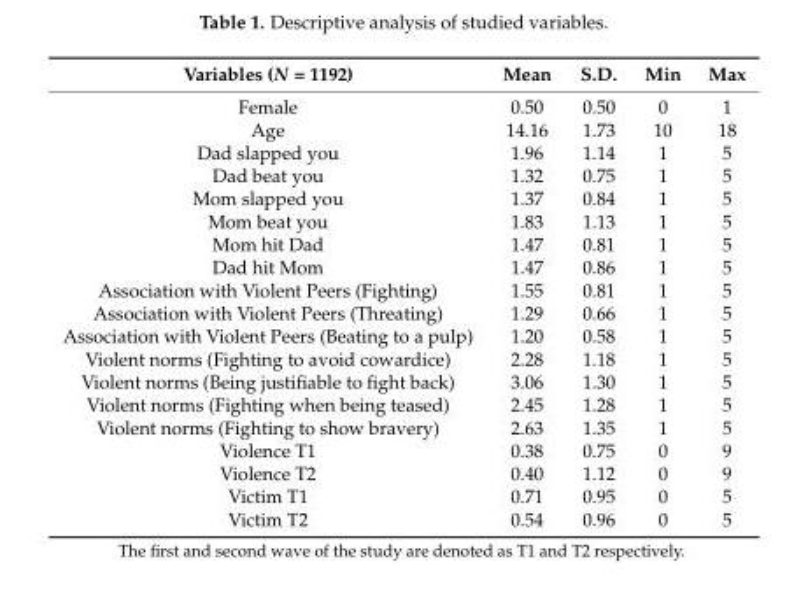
<table><thead><tr><td>Variables (N = 1192)</td><td>Mean</td><td>S.D.</td><td>Min</td><td>Max</td></tr></thead><tbody><tr><td>Female</td><td>0.50</td><td>0.50</td><td>0</td><td>1</td></tr><tr><td>Age</td><td>14.16</td><td>1.73</td><td>10</td><td>18</td></tr><tr><td>Dad slapped you</td><td>1.96</td><td>1.14</td><td>1</td><td>5</td></tr><tr><td>Dad beat you</td><td>1.32</td><td>0.75</td><td>1</td><td>5</td></tr><tr><td>Mom slapped you</td><td>1.37</td><td>0.84</td><td>1</td><td>5</td></tr><tr><td>Mom beat you</td><td>1.83</td><td>1.13</td><td>1</td><td>5</td></tr><tr><td>Mom hit Dad</td><td>1.47</td><td>0.81</td><td>1</td><td>5</td></tr><tr><td>Dad hit Mom</td><td>1.47</td><td>0.86</td><td>1</td><td>5</td></tr><tr><td>Association with Violent Peers (Fighting)</td><td>1.55</td><td>0.81</td><td>1</td><td>5</td></tr><tr><td>Association with Violent Peers (Threating)</td><td>1.29</td><td>0.66</td><td>1</td><td>5</td></tr><tr><td>Association with Violent Peers (Beating to a pulp)</td><td>1.20</td><td>0.58</td><td>1</td><td>5</td></tr><tr><td>Violent norms (Fighting to avoid cowardice)</td><td>2.28</td><td>1.18</td><td>1</td><td>5</td></tr><tr><td>Violent norms (Being justifiable to fight back)</td><td>3.06</td><td>1.30</td><td>1</td><td>5</td></tr><tr><td>Violent norms (Fighting when being teased)</td><td>2.45</td><td>1.28</td><td>1</td><td>5</td></tr><tr><td>Violent norms (Fighting to show bravery)</td><td>2.63</td><td>1.35</td><td>1</td><td>5</td></tr><tr><td>Violence T1</td><td>0.38</td><td>0.75</td><td>0</td><td>9</td></tr><tr><td>Violence T2</td><td>0.40</td><td>1.12</td><td>0</td><td>9</td></tr><tr><td>Victim T1</td><td>0.71</td><td>0.95</td><td>0</td><td>5</td></tr><tr><td>Victim T2</td><td>0.54</td><td>0.96</td><td>0</td><td>5</td></tr></tbody></table>